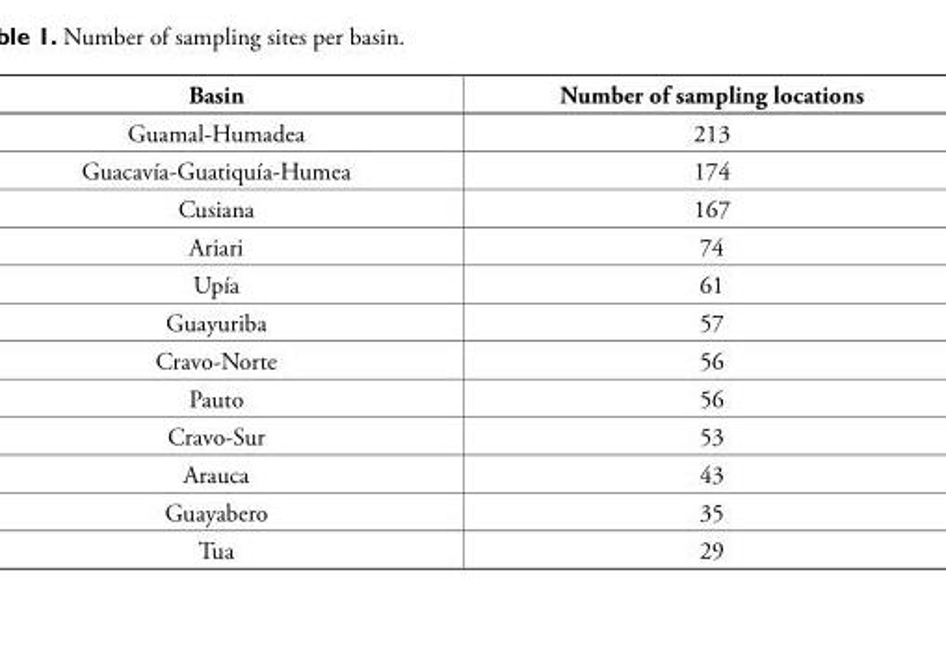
<table><thead><tr><td>Basin</td><td>Number of sampling locations</td></tr></thead><tbody><tr><td>Guamal-Humadea</td><td>213</td></tr><tr><td>Guacavía-Guatiquía-Humea</td><td>174</td></tr><tr><td>Cusiana</td><td>167</td></tr><tr><td>Ariari</td><td>74</td></tr><tr><td>Upía</td><td>61</td></tr><tr><td>Guayuriba</td><td>57</td></tr><tr><td>Cravo-Norte</td><td>56</td></tr><tr><td>Pauto</td><td>56</td></tr><tr><td>Cravo-Sur</td><td>53</td></tr><tr><td>Arauca</td><td>43</td></tr><tr><td>Guayabero</td><td>35</td></tr><tr><td>Tua</td><td>29</td></tr></tbody></table>